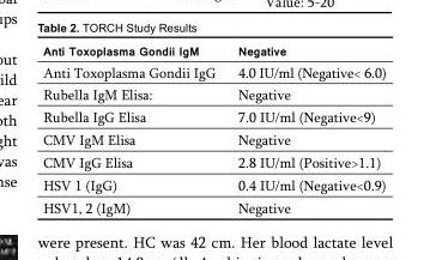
<table><thead><tr><td>Anti Toxoplasma Gondii IgM</td><td>Negative</td></tr></thead><tbody><tr><td>Anti Toxoplasma Gondii IgG</td><td>4.0 IU/ml (Negative&lt; 6.0)</td></tr><tr><td>Rubella IgM Elisa:</td><td>Negative</td></tr><tr><td>Rubella IgG Elisa</td><td>7.0 IU/ml (Negative&lt;9)</td></tr><tr><td>CMV IgM Elisa</td><td>Negative</td></tr><tr><td>CMV IgG Elisa</td><td>2.8 IU/ml (Positive&gt;1.1)</td></tr><tr><td>HSV 1 (IgG)</td><td>0.4 IU/ml (Negative&lt;0.9)</td></tr><tr><td>HSV1, 2 (IgM)</td><td>Negative</td></tr></tbody></table>